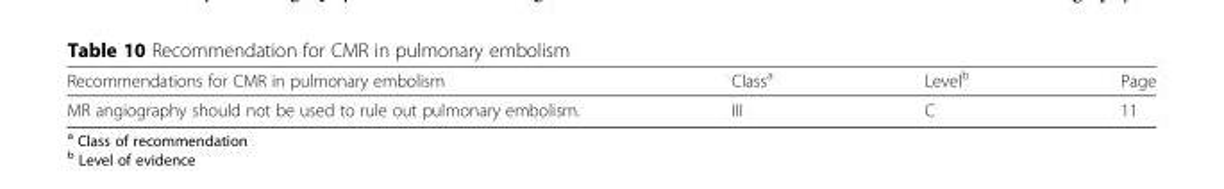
<table><thead><tr><td>Recommendations for CMR in pulmonary embolism</td><td>Class<sup>a</sup></td><td>Level<sup>b</sup></td><td>Page</td></tr></thead><tbody><tr><td>MR angiography should not be used to rule out pulmonary embolism.</td><td>III</td><td>C</td><td>11</td></tr></tbody></table>